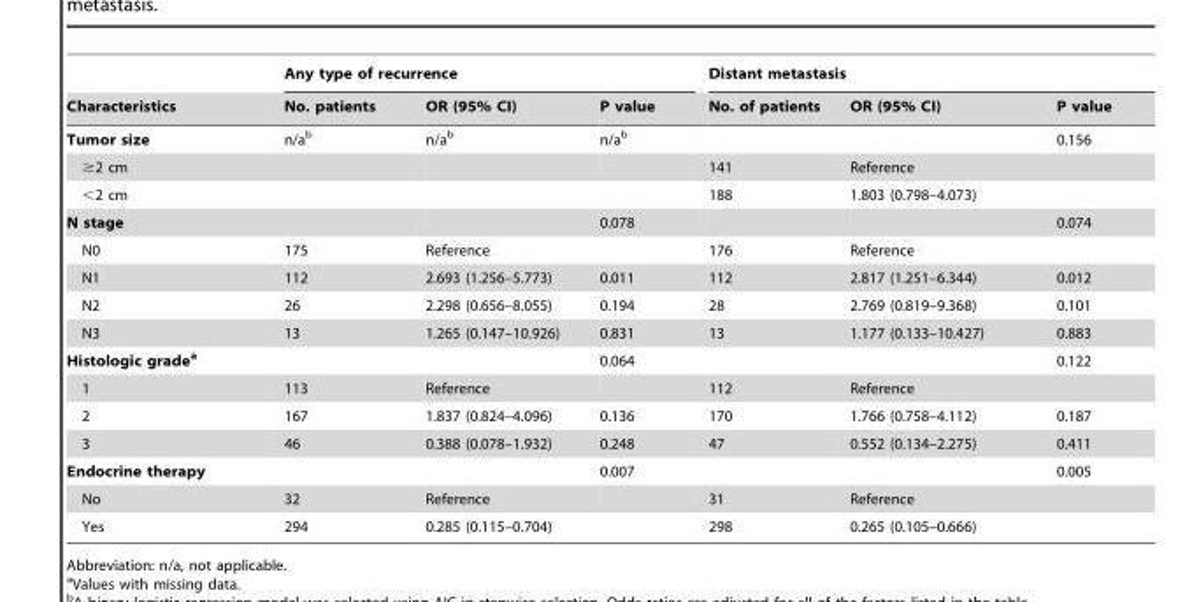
<table><thead><tr><td rowspan="2">Characteristics</td><td colspan="3">Any type of recurrence</td><td colspan="3">Distant metastasis</td></tr><tr><td>No. patients</td><td>OR (95% CI)</td><td>P value</td><td>No. of patients</td><td>OR (95% CI)</td><td>P value</td></tr></thead><tbody><tr><td>Tumor size</td><td>n/a<sup>b</sup></td><td>n/a<sup>b</sup></td><td>n/a<sup>b</sup></td><td></td><td></td><td>0.156</td></tr><tr><td>≥2 cm</td><td></td><td></td><td></td><td>141</td><td>Reference</td><td></td></tr><tr><td>&lt;2 cm</td><td></td><td></td><td></td><td>188</td><td>1.803 (0.798–4.073)</td><td></td></tr><tr><td>N stage</td><td></td><td></td><td>0.078</td><td></td><td></td><td>0.074</td></tr><tr><td>N0</td><td>175</td><td>Reference</td><td></td><td>176</td><td>Reference</td><td></td></tr><tr><td>N1</td><td>112</td><td>2.693 (1.256–5.773)</td><td>0.011</td><td>112</td><td>2.817 (1.251–6.344)</td><td>0.012</td></tr><tr><td>N2</td><td>26</td><td>2.298 (0.656–8.055)</td><td>0.194</td><td>28</td><td>2.769 (0.819–9.368)</td><td>0.101</td></tr><tr><td>N3</td><td>13</td><td>1.265 (0.147–10.926)</td><td>0.831</td><td>13</td><td>1.177 (0.133–10.427)</td><td>0.883</td></tr><tr><td>Histologic gradea</td><td></td><td></td><td>0.064</td><td></td><td></td><td>0.122</td></tr><tr><td>1</td><td>113</td><td>Reference</td><td></td><td>112</td><td>Reference</td><td></td></tr><tr><td>2</td><td>167</td><td>1.837 (0.824–4.096)</td><td>0.136</td><td>170</td><td>1.766 (0.758–4.112)</td><td>0.187</td></tr><tr><td>3</td><td>46</td><td>0.388 (0.078–1.932)</td><td>0.248</td><td>47</td><td>0.552 (0.134–2.275)</td><td>0.411</td></tr><tr><td>Endocrine therapy</td><td></td><td></td><td>0.007</td><td></td><td></td><td>0.005</td></tr><tr><td>No</td><td>32</td><td>Reference</td><td></td><td>31</td><td>Reference</td><td></td></tr><tr><td>Yes</td><td>294</td><td>0.285 (0.115–0.704)</td><td></td><td>298</td><td>0.265 (0.105–0.666)</td><td></td></tr></tbody></table>